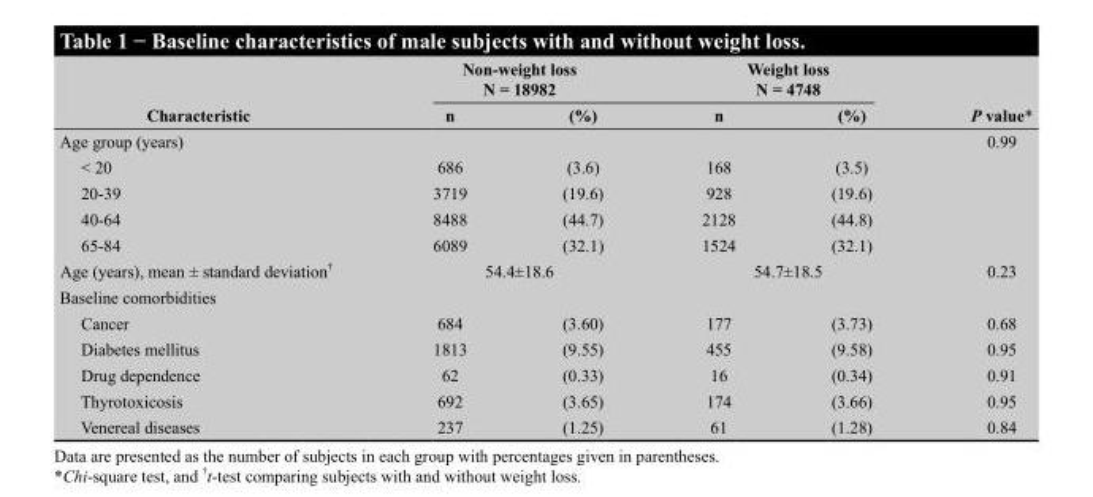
<table><thead><tr><td rowspan="2">Characteristic</td><td colspan="2">Non-weight loss N = 18982</td><td colspan="2">Weight loss N = 4748</td><td rowspan="2">P value*</td></tr><tr><td>n</td><td>(%)</td><td>n</td><td>(%)</td></tr></thead><tbody><tr><td>Age group (years)</td><td></td><td></td><td></td><td></td><td>0.99</td></tr><tr><td>&lt; 20</td><td>686</td><td>(3.6)</td><td>168</td><td>(3.5)</td><td></td></tr><tr><td>20-39</td><td>3719</td><td>(19.6)</td><td>928</td><td>(19.6)</td><td></td></tr><tr><td>40-64</td><td>8488</td><td>(44.7)</td><td>2128</td><td>(44.8)</td><td></td></tr><tr><td>65-84</td><td>6089</td><td>(32.1)</td><td>1524</td><td>(32.1)</td><td></td></tr><tr><td>Age (years), mean ± standard deviation †</td><td colspan="2">54.4±18.6</td><td colspan="2">54.7±18.5</td><td>0.23</td></tr><tr><td colspan="6">Baseline comorbidities</td></tr><tr><td>Cancer</td><td>684</td><td>(3.60)</td><td>177</td><td>(3.73)</td><td>0.68</td></tr><tr><td>Diabetes mellitus</td><td>1813</td><td>(9.55)</td><td>455</td><td>(9.58)</td><td>0.95</td></tr><tr><td>Drug dependence</td><td>62</td><td>(0.33)</td><td>16</td><td>(0.34)</td><td>0.91</td></tr><tr><td>Thyrotoxicosis</td><td>692</td><td>(3.65)</td><td>174</td><td>(3.66)</td><td>0.95</td></tr><tr><td>Venereal diseases</td><td>237</td><td>(1.25)</td><td>61</td><td>(1.28)</td><td>0.84</td></tr></tbody></table>